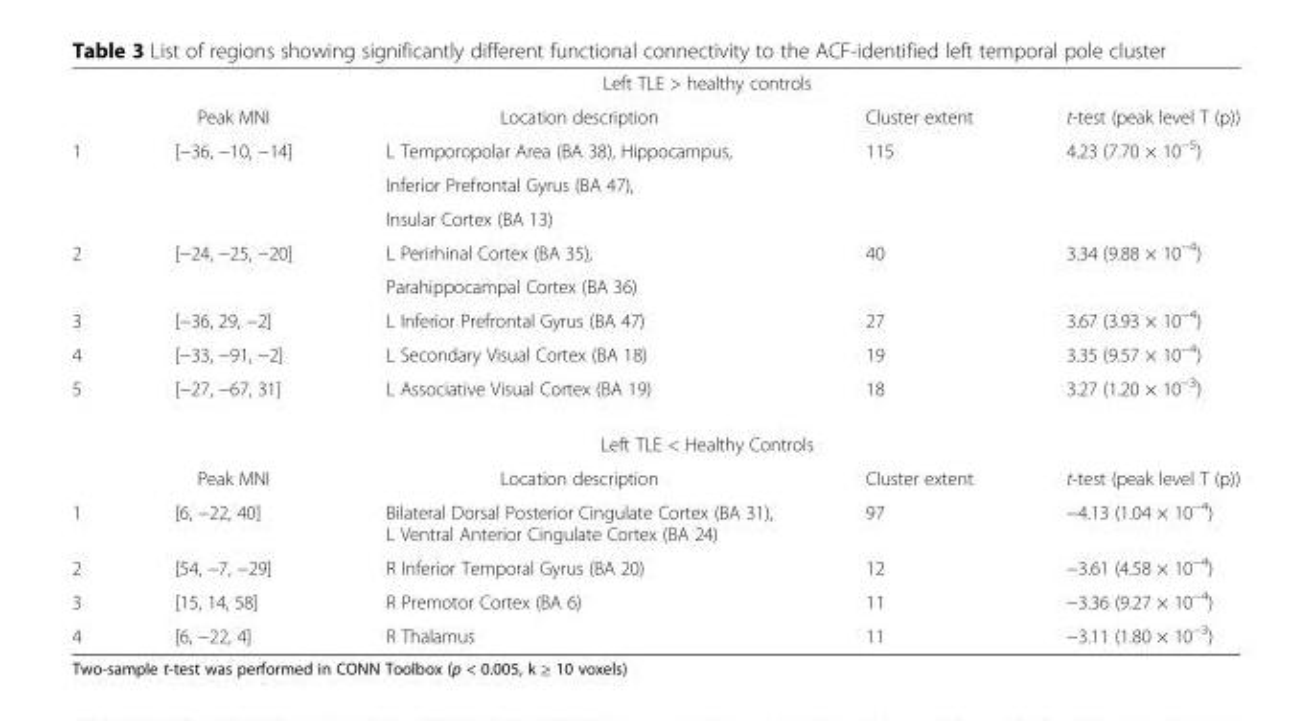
<table><thead><tr><td rowspan="2"></td><td colspan="4">Left TLE &gt; healthy controls</td></tr><tr><td>Peak MNI</td><td>Location description</td><td>Cluster extent</td><td>t-test (peak level T (p))</td></tr></thead><tbody><tr><td rowspan="3">1</td><td>[−36, −10, −14]</td><td>L Temporopolar Area (BA 38), Hippocampus,</td><td>115</td><td>4.23 (7.70 × 10<sup>−5</sup>)</td></tr><tr><td></td><td>Inferior Prefrontal Gyrus (BA 47),</td><td></td><td></td></tr><tr><td></td><td>Insular Cortex (BA 13)</td><td></td><td></td></tr><tr><td rowspan="2">2</td><td>[−24, −25, −20]</td><td>L Perirhinal Cortex (BA 35),</td><td>40</td><td>3.34 (9.88 × 10<sup>−4</sup>)</td></tr><tr><td></td><td>Parahippocampal Cortex (BA 36)</td><td></td><td></td></tr><tr><td>3</td><td>[−36, 29, −2]</td><td>L Inferior Prefrontal Gyrus (BA 47)</td><td>27</td><td>3.67 (3.93 × 10<sup>−4</sup>)</td></tr><tr><td>4</td><td>[−33, −91, −2]</td><td>L Secondary Visual Cortex (BA 18)</td><td>19</td><td>3.35 (9.57 × 10<sup>−4</sup>)</td></tr><tr><td rowspan="3">5</td><td>[−27, −67, 31]</td><td>L Associative Visual Cortex (BA 19)</td><td>18</td><td>3.27 (1.20 × 10<sup>−3</sup>)</td></tr><tr><td colspan="4">Left TLE &lt; Healthy Controls</td></tr><tr><td>Peak MNI</td><td>Location description</td><td>Cluster extent</td><td>t-test (peak level T (p))</td></tr><tr><td>1</td><td>[6, −22, 40]</td><td>Bilateral Dorsal Posterior Cingulate Cortex (BA 31), L Ventral Anterior Cingulate Cortex (BA 24)</td><td>97</td><td>−4.13 (1.04 × 10<sup>−4</sup>)</td></tr><tr><td>2</td><td>[54, −7, −29]</td><td>R Inferior Temporal Gyrus (BA 20)</td><td>12</td><td>−3.61 (4.58 × 10<sup>−4</sup>)</td></tr><tr><td>3</td><td>[15, 14, 58]</td><td>R Premotor Cortex (BA 6)</td><td>11</td><td>−3.36 (9.27 × 10<sup>−4</sup>)</td></tr><tr><td>4</td><td>[6, −22, 4]</td><td>R Thalamus</td><td>11</td><td>−3.11 (1.80 × 10<sup>−3</sup>)</td></tr></tbody></table>